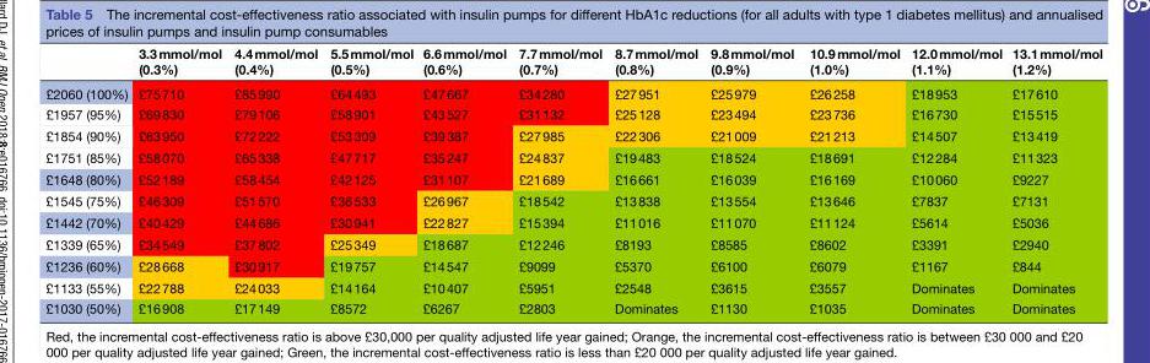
<table><thead><tr><td></td><td>3.3 mmol/mol (0.3%)</td><td>4.4 mmol/mol (0.4%)</td><td>5.5 mmol/mol (0.5%)</td><td>6.6 mmol/mol (0.6%)</td><td>7.7 mmol/mol (0.7%)</td><td>8.7 mmol/mol (0.8%)</td><td>9.8 mmol/mol (0.9%)</td><td>10.9 mmol/mol (1.0%)</td><td>12.0 mmol/mol (1.1%)</td><td>13.1 mmol/mol (1.2%)</td></tr></thead><tbody><tr><td>£2060 (100%)</td><td>£75 710</td><td>£85 990</td><td>£64 493</td><td>£47 667</td><td>£34 280</td><td>£27 951</td><td>£25 979</td><td>£26 258</td><td>£18 953</td><td>£17 610</td></tr><tr><td>£1957 (95%)</td><td>£69 830</td><td>£79 106</td><td>£58 901</td><td>£43 527</td><td>£31 132</td><td>£25 128</td><td>£23 494</td><td>£23 736</td><td>£16 730</td><td>£15 515</td></tr><tr><td>£1854 (90%)</td><td>£63 950</td><td>£72 222</td><td>£53 309</td><td>£39 387</td><td>£27 985</td><td>£22 306</td><td>£21 009</td><td>£21 213</td><td>£14 507</td><td>£13 419</td></tr><tr><td>£1751 (85%)</td><td>£58 070</td><td>£65 338</td><td>£47 717</td><td>£35 247</td><td>£24 837</td><td>£19 483</td><td>£18 524</td><td>£18 691</td><td>£12 284</td><td>£11 323</td></tr><tr><td>£1648 (80%)</td><td>£52 189</td><td>£58 454</td><td>£42 125</td><td>£31 107</td><td>£21 689</td><td>£16 661</td><td>£16 039</td><td>£16 169</td><td>£10 060</td><td>£9227</td></tr><tr><td>£1545 (75%)</td><td>£46 309</td><td>£51 570</td><td>£36 533</td><td>£26 967</td><td>£18 542</td><td>£13 838</td><td>£13 554</td><td>£13 646</td><td>£7837</td><td>£7131</td></tr><tr><td>£1442 (70%)</td><td>£40 429</td><td>£44 686</td><td>£30 941</td><td>£22 827</td><td>£15 394</td><td>£11 016</td><td>£11 070</td><td>£11 124</td><td>£5614</td><td>£5036</td></tr><tr><td>£1339 (65%)</td><td>£34 549</td><td>£37 802</td><td>£25 349</td><td>£18 687</td><td>£12 246</td><td>£8193</td><td>£8585</td><td>£8602</td><td>£3391</td><td>£2940</td></tr><tr><td>£1236 (60%)</td><td>£28 668</td><td>£30 917</td><td>£19 757</td><td>£14 547</td><td>£9099</td><td>£5370</td><td>£6100</td><td>£6079</td><td>£1167</td><td>£844</td></tr><tr><td>£1133 (55%)</td><td>£22 788</td><td>£24 033</td><td>£14 164</td><td>£10 407</td><td>£5951</td><td>£2548</td><td>£3615</td><td>£3557</td><td>Dominates</td><td>Dominates</td></tr><tr><td>£1030 (50%)</td><td>£16 908</td><td>£17 149</td><td>£8572</td><td>£6267</td><td>£2803</td><td>Dominates</td><td>£1130</td><td>£1035</td><td>Dominates</td><td>Dominates</td></tr></tbody></table>